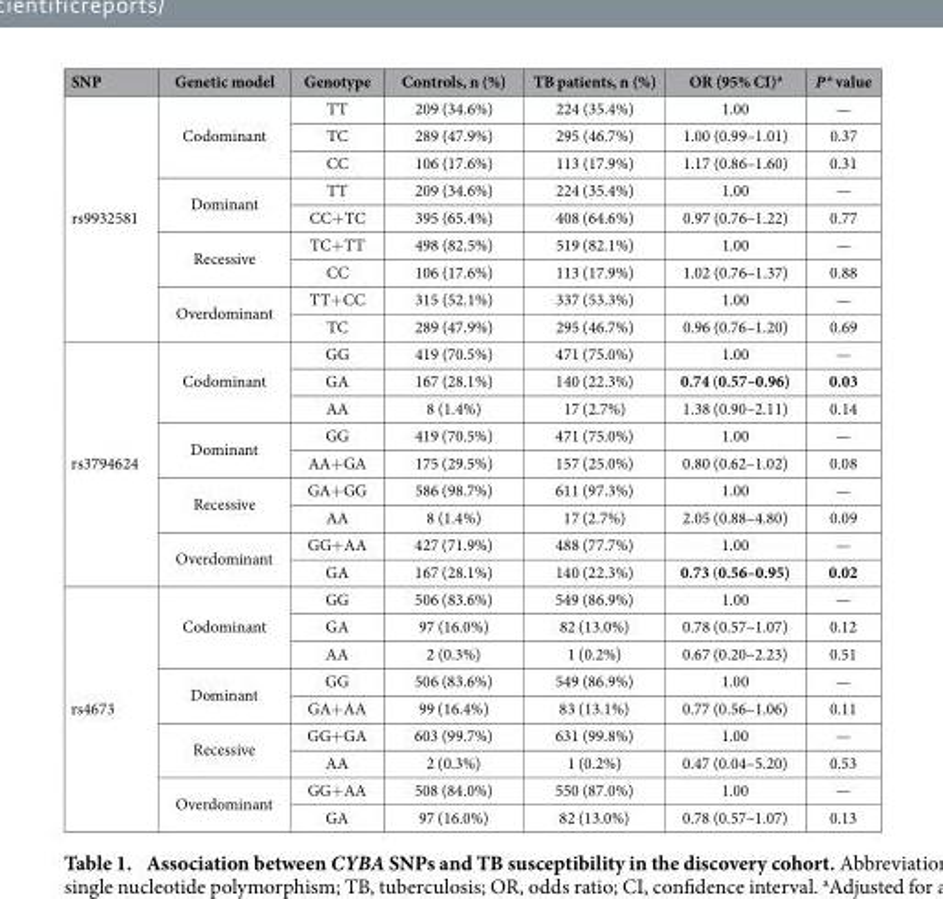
<table><thead><tr><td>SNP</td><td>Genetic model</td><td>Genotype</td><td>Controls, n (%)</td><td>TB patients, n (%)</td><td>OR (95% CI)<sup>a</sup></td><td>P a value</td></tr></thead><tbody><tr><td rowspan="9">rs9932581</td><td rowspan="3">Codominant</td><td>TT</td><td>209 (34.6%)</td><td>224 (35.4%)</td><td>1.00</td><td>—</td></tr><tr><td>TC</td><td>289 (47.9%)</td><td>295 (46.7%)</td><td>1.00 (0.99–1.01)</td><td>0.37</td></tr><tr><td>CC</td><td>106 (17.6%)</td><td>113 (17.9%)</td><td>1.17 (0.86–1.60)</td><td>0.31</td></tr><tr><td rowspan="2">Dominant</td><td>TT</td><td>209 (34.6%)</td><td>224 (35.4%)</td><td>1.00</td><td>—</td></tr><tr><td>CC+ TC</td><td>395 (65.4%)</td><td>408 (64.6%)</td><td>0.97 (0.76–1.22)</td><td>0.77</td></tr><tr><td rowspan="2">Recessive</td><td>TC+ TT</td><td>498 (82.5%)</td><td>519 (82.1%)</td><td>1.00</td><td>—</td></tr><tr><td>CC</td><td>106 (17.6%)</td><td>113 (17.9%)</td><td>1.02 (0.76–1.37)</td><td>0.88</td></tr><tr><td rowspan="2">Overdominant</td><td>TT+ CC</td><td>315 (52.1%)</td><td>337 (53.3%)</td><td>1.00</td><td>—</td></tr><tr><td>TC</td><td>289 (47.9%)</td><td>295 (46.7%)</td><td>0.96 (0.76–1.20)</td><td>0.69</td></tr><tr><td rowspan="9">rs3794624</td><td rowspan="3">Codominant</td><td>GG</td><td>419 (70.5%)</td><td>471 (75.0%)</td><td>1.00</td><td>—</td></tr><tr><td>GA</td><td>167 (28.1%)</td><td>140 (22.3%)</td><td>0.74 (0.57–0.96)</td><td>0.03</td></tr><tr><td>AA</td><td>8 (1.4%)</td><td>17 (2.7%)</td><td>1.38 (0.90–2.11)</td><td>0.14</td></tr><tr><td rowspan="2">Dominant</td><td>GG</td><td>419 (70.5%)</td><td>471 (75.0%)</td><td>1.00</td><td>—</td></tr><tr><td>AA+ GA</td><td>175 (29.5%)</td><td>157 (25.0%)</td><td>0.80 (0.62–1.02)</td><td>0.08</td></tr><tr><td rowspan="2">Recessive</td><td>GA+ GG</td><td>586 (98.7%)</td><td>611 (97.3%)</td><td>1.00</td><td>—</td></tr><tr><td>AA</td><td>8 (1.4%)</td><td>17 (2.7%)</td><td>2.05 (0.88–4.80)</td><td>0.09</td></tr><tr><td rowspan="2">Overdominant</td><td>GG+ AA</td><td>427 (71.9%)</td><td>488 (77.7%)</td><td>1.00</td><td>—</td></tr><tr><td>GA</td><td>167 (28.1%)</td><td>140 (22.3%)</td><td>0.73 (0.56–0.95)</td><td>0.02</td></tr><tr><td rowspan="9">rs4673</td><td rowspan="3">Codominant</td><td>GG</td><td>506 (83.6%)</td><td>549 (86.9%)</td><td>1.00</td><td>—</td></tr><tr><td>GA</td><td>97 (16.0%)</td><td>82 (13.0%)</td><td>0.78 (0.57–1.07)</td><td>0.12</td></tr><tr><td>AA</td><td>2 (0.3%)</td><td>1 (0.2%)</td><td>0.67 (0.20–2.23)</td><td>0.51</td></tr><tr><td rowspan="2">Dominant</td><td>GG</td><td>506 (83.6%)</td><td>549 (86.9%)</td><td>1.00</td><td>—</td></tr><tr><td>GA+ AA</td><td>99 (16.4%)</td><td>83 (13.1%)</td><td>0.77 (0.56–1.06)</td><td>0.11</td></tr><tr><td rowspan="2">Recessive</td><td>GG+ GA</td><td>603 (99.7%)</td><td>631 (99.8%)</td><td>1.00</td><td>—</td></tr><tr><td>AA</td><td>2 (0.3%)</td><td>1 (0.2%)</td><td>0.47 (0.04–5.20)</td><td>0.53</td></tr><tr><td rowspan="2">Overdominant</td><td>GG+ AA</td><td>508 (84.0%)</td><td>550 (87.0%)</td><td>1.00</td><td>—</td></tr><tr><td>GA</td><td>97 (16.0%)</td><td>82 (13.0%)</td><td>0.78 (0.57–1.07)</td><td>0.13</td></tr></tbody></table>